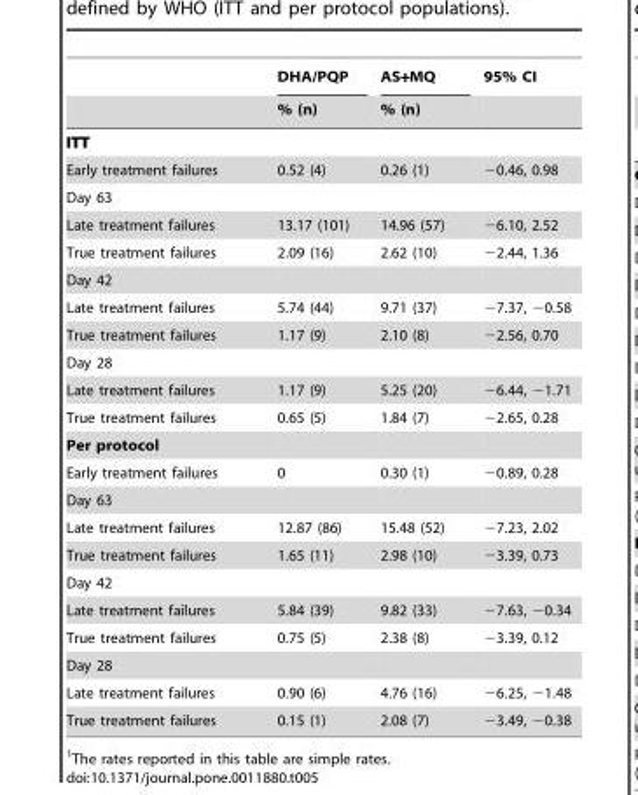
<table><thead><tr><td rowspan="2"></td><td rowspan="2">DHA/PQP % (n)</td><td rowspan="2">AS+MQ % (n)</td><td rowspan="2">95% CI</td></tr><tr></tr></thead><tbody><tr><td colspan="4">ITT</td></tr><tr><td>Early treatment failures</td><td>0.52 (4)</td><td>0.26 (1)</td><td>−0.46, 0.98</td></tr><tr><td colspan="4">Day 63</td></tr><tr><td>Late treatment failures</td><td>13.17 (101)</td><td>14.96 (57)</td><td>−6.10, 2.52</td></tr><tr><td>True treatment failures</td><td>2.09 (16)</td><td>2.62 (10)</td><td>−2.44, 1.36</td></tr><tr><td colspan="4">Day 42</td></tr><tr><td>Late treatment failures</td><td>5.74 (44)</td><td>9.71 (37)</td><td>−7.37, −0.58</td></tr><tr><td>True treatment failures</td><td>1.17 (9)</td><td>2.10 (8)</td><td>−2.56, 0.70</td></tr><tr><td colspan="4">Day 28</td></tr><tr><td>Late treatment failures</td><td>1.17 (9)</td><td>5.25 (20)</td><td>−6.44, −1.71</td></tr><tr><td>True treatment failures</td><td>0.65 (5)</td><td>1.84 (7)</td><td>−2.65, 0.28</td></tr><tr><td colspan="4">Per protocol</td></tr><tr><td>Early treatment failures</td><td>0</td><td>0.30 (1)</td><td>−0.89, 0.28</td></tr><tr><td colspan="4">Day 63</td></tr><tr><td>Late treatment failures</td><td>12.87 (86)</td><td>15.48 (52)</td><td>−7.23, 2.02</td></tr><tr><td>True treatment failures</td><td>1.65 (11)</td><td>2.98 (10)</td><td>−3.39, 0.73</td></tr><tr><td colspan="4">Day 42</td></tr><tr><td>Late treatment failures</td><td>5.84 (39)</td><td>9.82 (33)</td><td>−7.63, −0.34</td></tr><tr><td>True treatment failures</td><td>0.75 (5)</td><td>2.38 (8)</td><td>−3.39, 0.12</td></tr><tr><td colspan="4">Day 28</td></tr><tr><td>Late treatment failures</td><td>0.90 (6)</td><td>4.76 (16)</td><td>−6.25, −1.48</td></tr><tr><td>True treatment failures</td><td>0.15 (1)</td><td>2.08 (7)</td><td>−3.49, −0.38</td></tr></tbody></table>